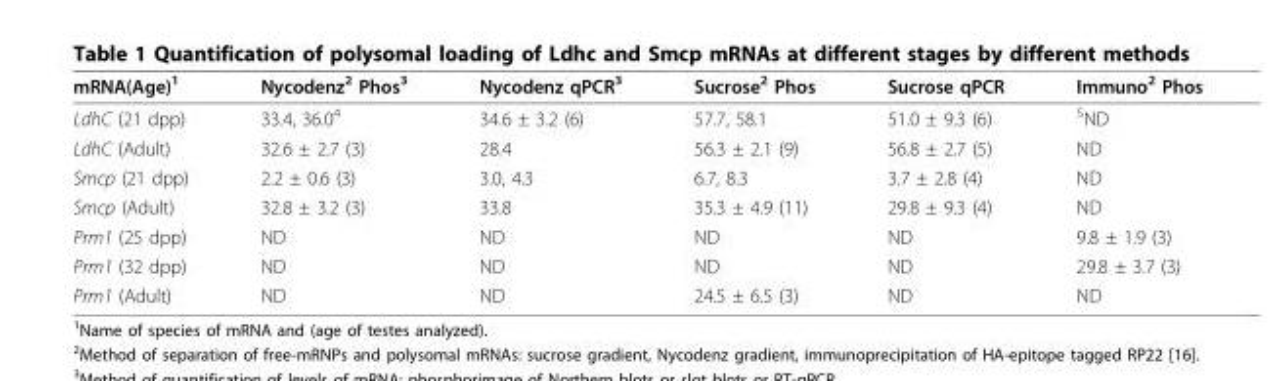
<table><thead><tr><td>mRNA(Age)<sup>1</sup></td><td>Nycodenz<sup>2</sup> Phos<sup>3</sup></td><td>Nycodenz qPCR<sup>3</sup></td><td>Sucrose<sup>2</sup> Phos</td><td>Sucrose qPCR</td><td>Immuno<sup>2</sup> Phos</td></tr></thead><tbody><tr><td>LdhC (21 dpp)</td><td>33.4, 36.0<sup>4</sup></td><td>34.6 ± 3.2 (6)</td><td>57.7, 58.1</td><td>51.0 ± 9.3 (6)</td><td><sup>5</sup>ND</td></tr><tr><td>LdhC (Adult)</td><td>32.6 ± 2.7 (3)</td><td>28.4</td><td>56.3 ± 2.1 (9)</td><td>56.8 ± 2.7 (5)</td><td>ND</td></tr><tr><td>Smcp (21 dpp)</td><td>2.2 ± 0.6 (3)</td><td>3.0, 4.3</td><td>6.7, 8.3</td><td>3.7 ± 2.8 (4)</td><td>ND</td></tr><tr><td>Smcp (Adult)</td><td>32.8 ± 3.2 (3)</td><td>33.8</td><td>35.3 ± 4.9 (11)</td><td>29.8 ± 9.3 (4)</td><td>ND</td></tr><tr><td>Prm1 (25 dpp)</td><td>ND</td><td>ND</td><td>ND</td><td>ND</td><td>9.8 ± 1.9 (3)</td></tr><tr><td>Prm1 (32 dpp)</td><td>ND</td><td>ND</td><td>ND</td><td>ND</td><td>29.8 ± 3.7 (3)</td></tr><tr><td>Prm1 (Adult)</td><td>ND</td><td>ND</td><td>24.5 ± 6.5 (3)</td><td>ND</td><td>ND</td></tr></tbody></table>